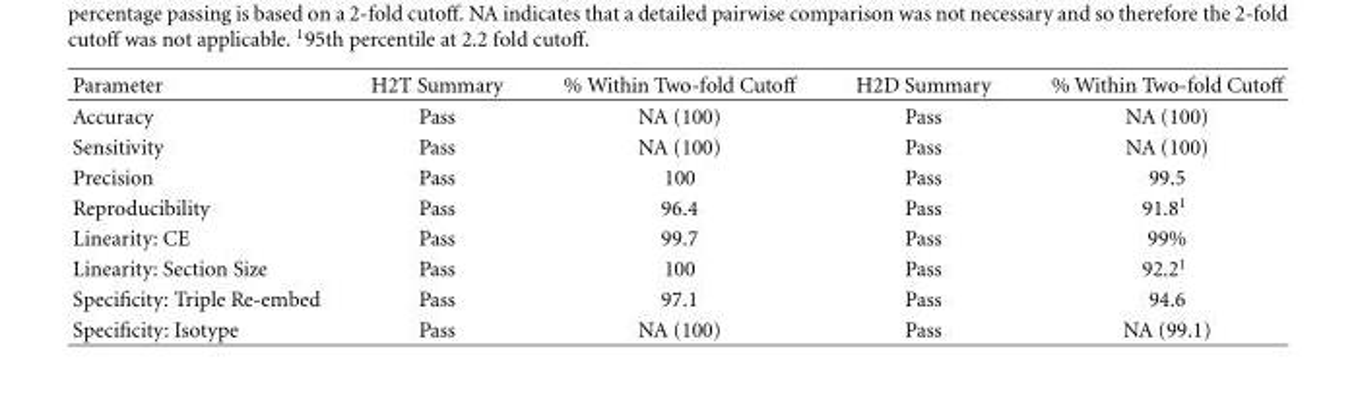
<table><thead><tr><td>Parameter</td><td>H2T Summary</td><td>% Within Two-fold Cutoff</td><td>H2D Summary</td><td>% Within Two-fold Cutoff</td></tr></thead><tbody><tr><td>Accuracy</td><td>Pass</td><td>NA (100)</td><td>Pass</td><td>NA (100)</td></tr><tr><td>Sensitivity</td><td>Pass</td><td>NA (100)</td><td>Pass</td><td>NA (100)</td></tr><tr><td>Precision</td><td>Pass</td><td>100</td><td>Pass</td><td>99.5</td></tr><tr><td>Reproducibility</td><td>Pass</td><td>96.4</td><td>Pass</td><td>91.8<sup>1</sup></td></tr><tr><td>Linearity: CE</td><td>Pass</td><td>99.7</td><td>Pass</td><td>99%</td></tr><tr><td>Linearity: Section Size</td><td>Pass</td><td>100</td><td>Pass</td><td>92.2<sup>1</sup></td></tr><tr><td>Specificity: Triple Re-embed</td><td>Pass</td><td>97.1</td><td>Pass</td><td>94.6</td></tr><tr><td>Specificity: Isotype</td><td>Pass</td><td>NA (100)</td><td>Pass</td><td>NA (99.1)</td></tr></tbody></table>